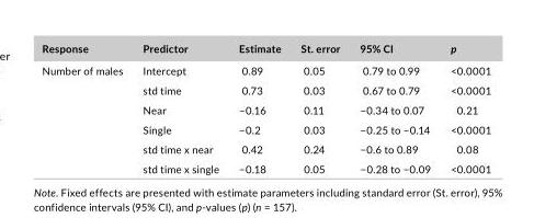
<table><thead><tr><td>Response</td><td>Predictor</td><td>Estimate</td><td>St. error</td><td>95% CI</td><td>p</td></tr></thead><tbody><tr><td rowspan="6">Number of males</td><td>Intercept</td><td>0.89</td><td>0.05</td><td>0.79 to 0.99</td><td>&lt;0.0001</td></tr><tr><td>std time</td><td>0.73</td><td>0.03</td><td>0.67 to 0.79</td><td>&lt;0.0001</td></tr><tr><td>Near</td><td>−0.16</td><td>0.11</td><td>−0.34 to 0.07</td><td>0.21</td></tr><tr><td>Single</td><td>−0.2</td><td>0.03</td><td>−0.25 to −0.14</td><td>&lt;0.0001</td></tr><tr><td>std time x near</td><td>0.42</td><td>0.24</td><td>−0.6 to 0.89</td><td>0.08</td></tr><tr><td>std time x single</td><td>−0.18</td><td>0.05</td><td>−0.28 to −0.09</td><td>&lt;0.0001</td></tr></tbody></table>